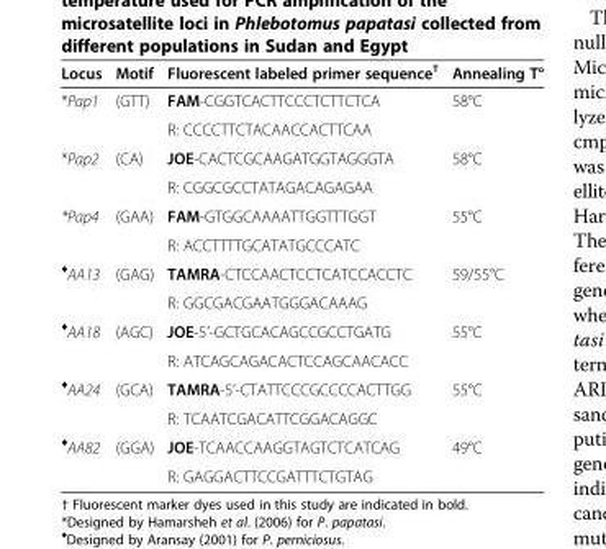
<table><thead><tr><td>Locus</td><td>Motif</td><td>Fluorescent labeled primer sequence<sup>†</sup></td><td>Annealing T°</td></tr></thead><tbody><tr><td rowspan="2">*Pap1</td><td>(GTT)</td><td>FAM-CGGTCACTTCCCTCTTCTCA</td><td>58°C</td></tr><tr><td></td><td>R: CCCCTTCTACAACCACTTCAA</td><td></td></tr><tr><td rowspan="2">*Pap2</td><td>(CA)</td><td>JOE-CACTCGCAAGATGGTAGGGTA</td><td>58°C</td></tr><tr><td></td><td>R: CGGCGCCTATAGACAGAGAA</td><td></td></tr><tr><td rowspan="2">*Pap4</td><td>(GAA)</td><td>FAM-GTGGCAAAATTGGTTTGGT</td><td>55°C</td></tr><tr><td></td><td>R: ACCTTTTGCATATGCCCATC</td><td></td></tr><tr><td rowspan="2"><sup>♦</sup>AA13</td><td>(GAG)</td><td>TAMRA-CTCCAACTCCTCATCCACCTC</td><td>59/55°C</td></tr><tr><td></td><td>R: GGCGACGAATGGGACAAAG</td><td></td></tr><tr><td rowspan="2"><sup>♦</sup>AA18</td><td>(AGC)</td><td>JOE-5’-GCTGCACAGCCGCCTGATG</td><td>55°C</td></tr><tr><td></td><td>R: ATCAGCAGACACTCCAGCAACACC</td><td></td></tr><tr><td rowspan="2"><sup>♦</sup>AA24</td><td>(GCA)</td><td>TAMRA-5’-CTATTCCCGCCCCACTTGG</td><td>55°C</td></tr><tr><td></td><td>R: TCAATCGACATTCGGACAGGC</td><td></td></tr><tr><td rowspan="2"><sup>♦</sup>AA82</td><td>(GGA)</td><td>JOE-TCAACCAAGGTAGTCTCATCAG</td><td>49°C</td></tr><tr><td></td><td>R: GAGGACTTCCGATTTCTGTAG</td><td></td></tr></tbody></table>